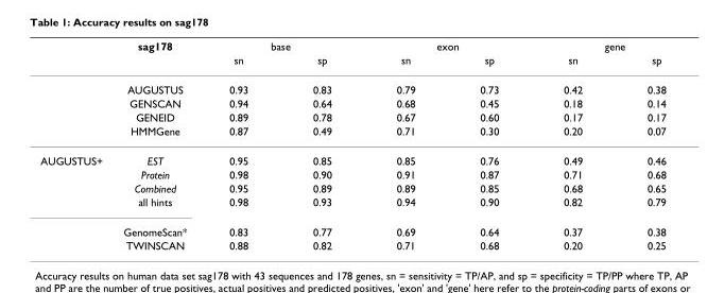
<table><thead><tr><td rowspan="2"></td><td rowspan="2">sag178</td><td colspan="2">base</td><td colspan="2">exon</td><td colspan="2">gene</td></tr><tr><td>sn</td><td>sp</td><td>sn</td><td>sp</td><td>sn</td><td>sp</td></tr></thead><tbody><tr><td></td><td>AUGUSTUS</td><td>0.93</td><td>0.83</td><td>0.79</td><td>0.73</td><td>0.42</td><td>0.38</td></tr><tr><td></td><td>GENSCAN</td><td>0.94</td><td>0.64</td><td>0.68</td><td>0.45</td><td>0.18</td><td>0.14</td></tr><tr><td></td><td>GENEID</td><td>0.89</td><td>0.78</td><td>0.67</td><td>0.60</td><td>0.17</td><td>0.17</td></tr><tr><td></td><td>HMMGene</td><td>0.87</td><td>0.49</td><td>0.71</td><td>0.30</td><td>0.20</td><td>0.07</td></tr><tr><td rowspan="6">AUGUSTUS+</td><td>EST</td><td>0.95</td><td>0.85</td><td>0.85</td><td>0.76</td><td>0.49</td><td>0.46</td></tr><tr><td>Protein</td><td>0.98</td><td>0.90</td><td>0.91</td><td>0.87</td><td>0.71</td><td>0.68</td></tr><tr><td>Combined</td><td>0.95</td><td>0.89</td><td>0.89</td><td>0.85</td><td>0.68</td><td>0.65</td></tr><tr><td>all hints</td><td>0.98</td><td>0.93</td><td>0.94</td><td>0.90</td><td>0.82</td><td>0.79</td></tr><tr><td>GenomeScan*</td><td>0.83</td><td>0.77</td><td>0.69</td><td>0.64</td><td>0.37</td><td>0.38</td></tr><tr><td>TWINSCAN</td><td>0.88</td><td>0.82</td><td>0.71</td><td>0.68</td><td>0.20</td><td>0.25</td></tr></tbody></table>